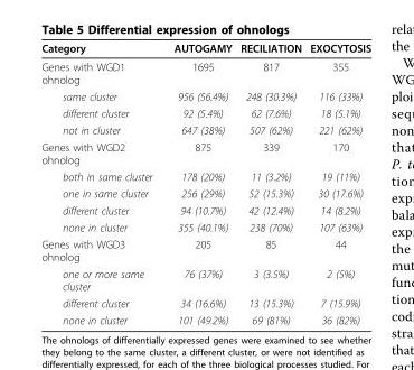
<table><thead><tr><td>Category</td><td>AUTOGAMY</td><td>RECILIATION</td><td>EXOCYTOSIS</td></tr></thead><tbody><tr><td>Genes with WGD1 ohnolog</td><td>1695</td><td>817</td><td>355</td></tr><tr><td>same cluster</td><td>956 (56.4%)</td><td>248 (30.3%)</td><td>116 (33%)</td></tr><tr><td>different cluster</td><td>92 (5.4%)</td><td>62 (7.6%)</td><td>18 (5.1%)</td></tr><tr><td>not in cluster</td><td>647 (38%)</td><td>507 (62%)</td><td>221 (62%)</td></tr><tr><td>Genes with WGD2 ohnolog</td><td>875</td><td>339</td><td>170</td></tr><tr><td>both in same cluster</td><td>178 (20%)</td><td>11 (3.2%)</td><td>19 (11%)</td></tr><tr><td>one in same cluster</td><td>256 (29%)</td><td>52 (15.3%)</td><td>30 (17.6%)</td></tr><tr><td>different cluster</td><td>94 (10.7%)</td><td>42 (12.4%)</td><td>14 (8.2%)</td></tr><tr><td>none in cluster</td><td>355 (40.1%)</td><td>238 (70%)</td><td>107 (63%)</td></tr><tr><td>Genes with WGD3 ohnolog</td><td>205</td><td>85</td><td>44</td></tr><tr><td>one or more same cluster</td><td>76 (37%)</td><td>3 (3.5%)</td><td>2 (5%)</td></tr><tr><td>different cluster</td><td>34 (16.6%)</td><td>13 (15.3%)</td><td>7 (15.9%)</td></tr><tr><td>none in cluster</td><td>101 (49.2%)</td><td>69 (81%)</td><td>36 (82%)</td></tr></tbody></table>